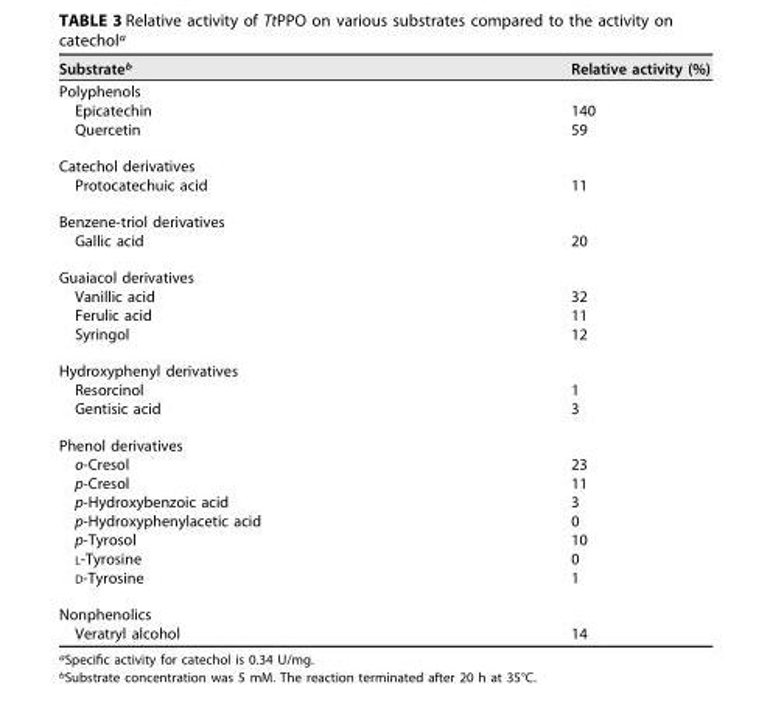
<table><thead><tr><td>Substrate<sup>b</sup></td><td>Relative activity (%)</td></tr></thead><tbody><tr><td colspan="2">Polyphenols</td></tr><tr><td>Epicatechin</td><td>140</td></tr><tr><td>Quercetin</td><td>59</td></tr><tr><td colspan="2">Catechol derivatives</td></tr><tr><td>Protocatechuic acid</td><td>11</td></tr><tr><td colspan="2">Benzene-triol derivatives</td></tr><tr><td>Gallic acid</td><td>20</td></tr><tr><td colspan="2">Guaiacol derivatives</td></tr><tr><td>Vanillic acid</td><td>32</td></tr><tr><td>Ferulic acid</td><td>11</td></tr><tr><td>Syringol</td><td>12</td></tr><tr><td colspan="2">Hydroxyphenyl derivatives</td></tr><tr><td>Resorcinol</td><td>1</td></tr><tr><td>Gentisic acid</td><td>3</td></tr><tr><td colspan="2">Phenol derivatives</td></tr><tr><td>o-Cresol</td><td>23</td></tr><tr><td>p-Cresol</td><td>11</td></tr><tr><td>p-Hydroxybenzoic acid</td><td>3</td></tr><tr><td>p-Hydroxyphenylacetic acid</td><td>0</td></tr><tr><td>p-Tyrosol</td><td>10</td></tr><tr><td>L-Tyrosine</td><td>0</td></tr><tr><td>D-Tyrosine</td><td>1</td></tr><tr><td colspan="2">Nonphenolics</td></tr><tr><td>Veratryl alcohol</td><td>14</td></tr></tbody></table>